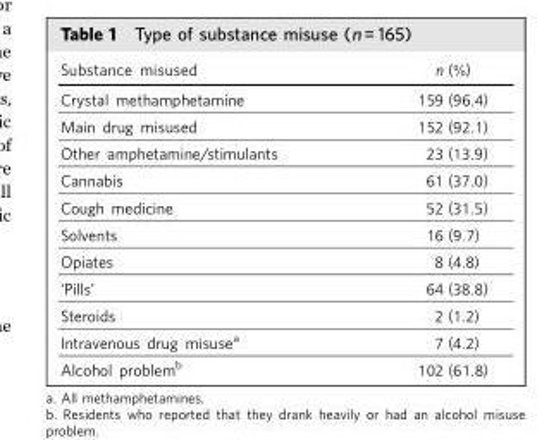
<table><thead><tr><td>Substance misused</td><td>n (%)</td></tr></thead><tbody><tr><td>Crystal methamphetamine</td><td>159 (96.4)</td></tr><tr><td>Main drug misused</td><td>152 (92.1)</td></tr><tr><td>Other amphetamine/stimulants</td><td>23 (13.9)</td></tr><tr><td>Cannabis</td><td>61 (37.0)</td></tr><tr><td>Cough medicine</td><td>52 (31.5)</td></tr><tr><td>Solvents</td><td>16 (9.7)</td></tr><tr><td>Opiates</td><td>8 (4.8)</td></tr><tr><td>‘Pills’</td><td>64 (38.8)</td></tr><tr><td>Steroids</td><td>2 (1.2)</td></tr><tr><td>Intravenous drug misuse<sup>a</sup></td><td>7 (4.2)</td></tr><tr><td>Alcohol problem<sup>b</sup></td><td>102 (61.8)</td></tr></tbody></table>